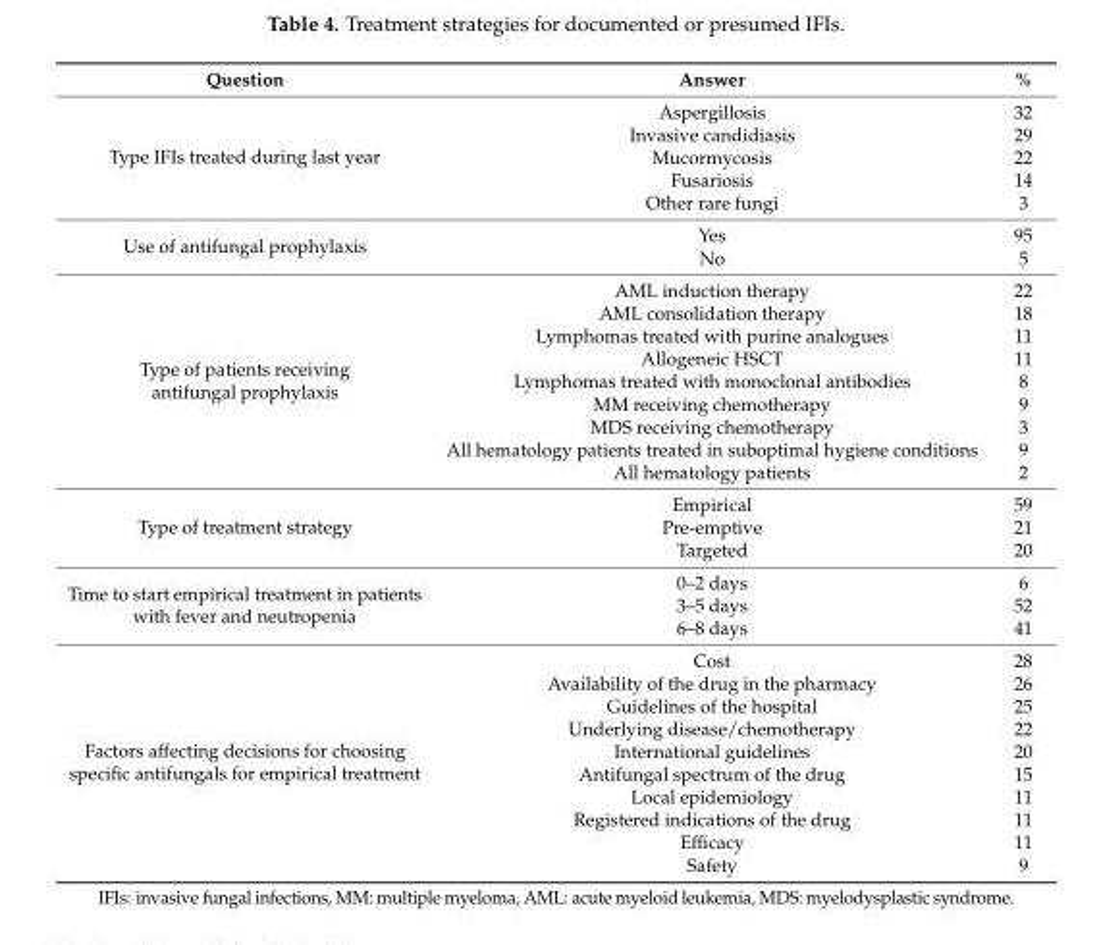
<table><thead><tr><td>Question</td><td>Answer</td><td>%</td></tr></thead><tbody><tr><td rowspan="5">Type IFIs treated during last year</td><td>Aspergillosis</td><td>32</td></tr><tr><td>Invasive candidiasis</td><td>29</td></tr><tr><td>Mucormycosis</td><td>22</td></tr><tr><td>Fusariosis</td><td>14</td></tr><tr><td>Other rare fungi</td><td>3</td></tr><tr><td rowspan="2">Use of antifungal prophylaxis</td><td>Yes</td><td>95</td></tr><tr><td>No</td><td>5</td></tr><tr><td rowspan="9">Type of patients receiving antifungal prophylaxis</td><td>AML induction therapy</td><td>22</td></tr><tr><td>AML consolidation therapy</td><td>18</td></tr><tr><td>Lymphomas treated with purine analogues</td><td>11</td></tr><tr><td>Allogeneic HSCT</td><td>11</td></tr><tr><td>Lymphomas treated with monoclonal antibodies</td><td>8</td></tr><tr><td>MM receiving chemotherapy</td><td>9</td></tr><tr><td>MDS receiving chemotherapy</td><td>3</td></tr><tr><td>All hematology patients treated in suboptimal hygiene conditions</td><td>9</td></tr><tr><td>All hematology patients</td><td>2</td></tr><tr><td rowspan="3">Type of treatment strategy</td><td>Empirical</td><td>59</td></tr><tr><td>Pre-emptive</td><td>21</td></tr><tr><td>Targeted</td><td>20</td></tr><tr><td rowspan="3">Time to start empirical treatment in patients with fever and neutropenia</td><td>0–2 days</td><td>6</td></tr><tr><td>3–5 days</td><td>52</td></tr><tr><td>6–8 days</td><td>41</td></tr><tr><td rowspan="10">Factors affecting decisions for choosing specific antifungals for empirical treatment</td><td>Cost</td><td>28</td></tr><tr><td>Availability of the drug in the pharmacy</td><td>26</td></tr><tr><td>Guidelines of the hospital</td><td>25</td></tr><tr><td>Underlying disease/chemotherapy</td><td>22</td></tr><tr><td>International guidelines</td><td>20</td></tr><tr><td>Antifungal spectrum of the drug</td><td>15</td></tr><tr><td>Local epidemiology</td><td>11</td></tr><tr><td>Registered indications of the drug</td><td>11</td></tr><tr><td>Efficacy</td><td>11</td></tr><tr><td>Safety</td><td>9</td></tr></tbody></table>